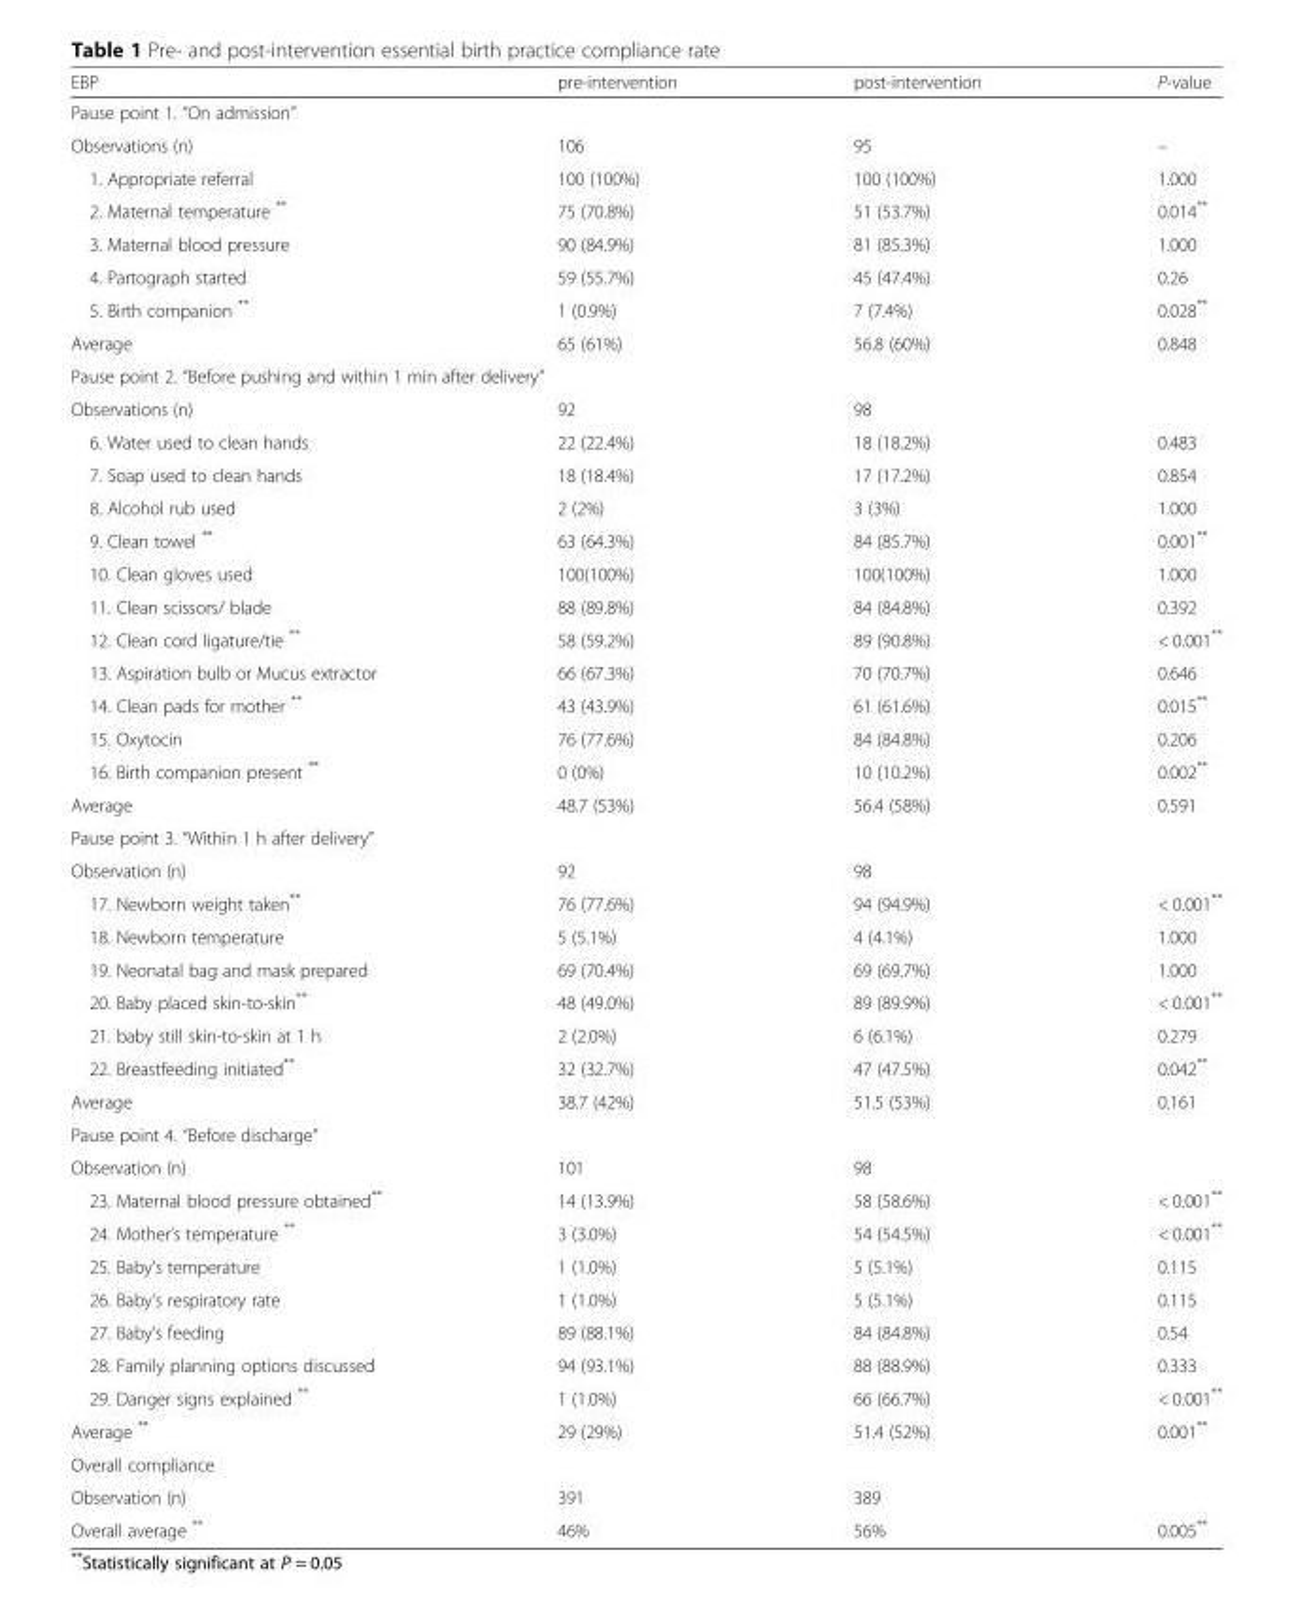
<table><thead><tr><td>EBP</td><td>pre-intervention</td><td>post-intervention</td><td>P-value</td></tr></thead><tbody><tr><td colspan="4">Pause point 1. “On admission”</td></tr><tr><td>Observations (n)</td><td>106</td><td>95</td><td>–</td></tr><tr><td>1. Appropriate referral</td><td>100 (100%)</td><td>100 (100%)</td><td>1.000</td></tr><tr><td>2. Maternal temperature **</td><td>75 (70.8%)</td><td>51 (53.7%)</td><td>0.014**</td></tr><tr><td>3. Maternal blood pressure</td><td>90 (84.9%)</td><td>81 (85.3%)</td><td>1.000</td></tr><tr><td>4. Partograph started</td><td>59 (55.7%)</td><td>45 (47.4%)</td><td>0.26</td></tr><tr><td>5. Birth companion **</td><td>1 (0.9%)</td><td>7 (7.4%)</td><td>0.028**</td></tr><tr><td>Average</td><td>65 (61%)</td><td>56.8 (60%)</td><td>0.848</td></tr><tr><td colspan="4">Pause point 2. “Before pushing and within 1 min after delivery”</td></tr><tr><td>Observations (n)</td><td>92</td><td>98</td><td></td></tr><tr><td>6. Water used to clean hands</td><td>22 (22.4%)</td><td>18 (18.2%)</td><td>0.483</td></tr><tr><td>7. Soap used to clean hands</td><td>18 (18.4%)</td><td>17 (17.2%)</td><td>0.854</td></tr><tr><td>8. Alcohol rub used</td><td>2 (2%)</td><td>3 (3%)</td><td>1.000</td></tr><tr><td>9. Clean towel **</td><td>63 (64.3%)</td><td>84 (85.7%)</td><td>0.001**</td></tr><tr><td>10. Clean gloves used</td><td>100(100%)</td><td>100(100%)</td><td>1.000</td></tr><tr><td>11. Clean scissors/ blade</td><td>88 (89.8%)</td><td>84 (84.8%)</td><td>0.392</td></tr><tr><td>12. Clean cord ligature/tie **</td><td>58 (59.2%)</td><td>89 (90.8%)</td><td>&lt; 0.001**</td></tr><tr><td>13. Aspiration bulb or Mucus extractor</td><td>66 (67.3%)</td><td>70 (70.7%)</td><td>0.646</td></tr><tr><td>14. Clean pads for mother **</td><td>43 (43.9%)</td><td>61 (61.6%)</td><td>0.015**</td></tr><tr><td>15. Oxytocin</td><td>76 (77.6%)</td><td>84 (84.8%)</td><td>0.206</td></tr><tr><td>16. Birth companion present **</td><td>0 (0%)</td><td>10 (10.2%)</td><td>0.002**</td></tr><tr><td>Average</td><td>48.7 (53%)</td><td>56.4 (58%)</td><td>0.591</td></tr><tr><td colspan="4">Pause point 3. “Within 1 h after delivery”</td></tr><tr><td>Observation (n)</td><td>92</td><td>98</td><td></td></tr><tr><td>17. Newborn weight taken**</td><td>76 (77.6%)</td><td>94 (94.9%)</td><td>&lt; 0.001**</td></tr><tr><td>18. Newborn temperature</td><td>5 (5.1%)</td><td>4 (4.1%)</td><td>1.000</td></tr><tr><td>19. Neonatal bag and mask prepared</td><td>69 (70.4%)</td><td>69 (69.7%)</td><td>1.000</td></tr><tr><td>20. Baby placed skin-to-skin**</td><td>48 (49.0%)</td><td>89 (89.9%)</td><td>&lt; 0.001**</td></tr><tr><td>21. baby still skin-to-skin at 1 h</td><td>2 (2.0%)</td><td>6 (6.1%)</td><td>0.279</td></tr><tr><td>22. Breastfeeding initiated**</td><td>32 (32.7%)</td><td>47 (47.5%)</td><td>0.042**</td></tr><tr><td>Average</td><td>38.7 (42%)</td><td>51.5 (53%)</td><td>0.161</td></tr><tr><td colspan="4">Pause point 4. “Before discharge”</td></tr><tr><td>Observation (n)</td><td>101</td><td>98</td><td></td></tr><tr><td>23. Maternal blood pressure obtained**</td><td>14 (13.9%)</td><td>58 (58.6%)</td><td>&lt; 0.001**</td></tr><tr><td>24. Mother’s temperature **</td><td>3 (3.0%)</td><td>54 (54.5%)</td><td>&lt; 0.001**</td></tr><tr><td>25. Baby’s temperature</td><td>1 (1.0%)</td><td>5 (5.1%)</td><td>0.115</td></tr><tr><td>26. Baby’s respiratory rate</td><td>1 (1.0%)</td><td>5 (5.1%)</td><td>0.115</td></tr><tr><td>27. Baby’s feeding</td><td>89 (88.1%)</td><td>84 (84.8%)</td><td>0.54</td></tr><tr><td>28. Family planning options discussed</td><td>94 (93.1%)</td><td>88 (88.9%)</td><td>0.333</td></tr><tr><td>29. Danger signs explained **</td><td>1 (1.0%)</td><td>66 (66.7%)</td><td>&lt; 0.001**</td></tr><tr><td>Average **</td><td>29 (29%)</td><td>51.4 (52%)</td><td>0.001**</td></tr><tr><td colspan="4">Overall compliance</td></tr><tr><td>Observation (n)</td><td>391</td><td>389</td><td></td></tr><tr><td>Overall average **</td><td>46%</td><td>56%</td><td>0.005**</td></tr></tbody></table>